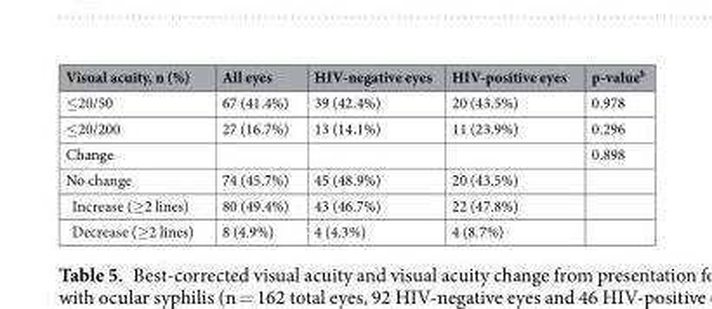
<table><thead><tr><td>Visual acuity, n (%)</td><td>All eyes</td><td>HIV-negative eyes</td><td>HIV-positive eyes</td><td>p-value<sup>b</sup></td></tr></thead><tbody><tr><td>≤20/50</td><td>67 (41.4%)</td><td>39 (42.4%)</td><td>20 (43.5%)</td><td>0.978</td></tr><tr><td>≤20/200</td><td>27 (16.7%)</td><td>13 (14.1%)</td><td>11 (23.9%)</td><td>0.296</td></tr><tr><td>Change</td><td></td><td></td><td></td><td>0.898</td></tr><tr><td>No change</td><td>74 (45.7%)</td><td>45 (48.9%)</td><td>20 (43.5%)</td><td></td></tr><tr><td>Increase (≥2 lines)</td><td>80 (49.4%)</td><td>43 (46.7%)</td><td>22 (47.8%)</td><td></td></tr><tr><td>Decrease (≥2 lines)</td><td>8 (4.9%)</td><td>4 (4.3%)</td><td>4 (8.7%)</td><td></td></tr></tbody></table>